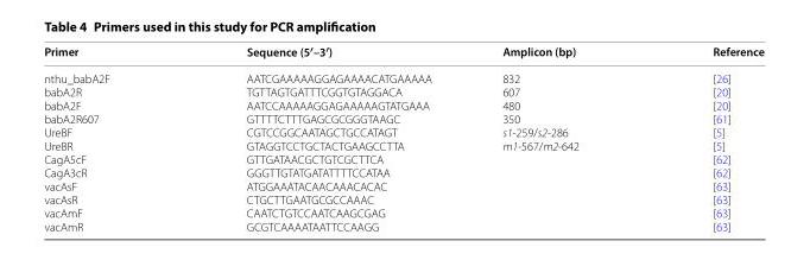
<table><thead><tr><td>Primer</td><td>Sequence (5′–3′)</td><td>Amplicon (bp)</td><td>Reference</td></tr></thead><tbody><tr><td>nthu_babA2F babA2R babA2F babA2R607 UreBF UreBR CagA5cF CagA3cR vacAsF vacAsR vacAmF vacAmR</td><td>AATCGAAAAAGGAGAAAACATGAAAAA TGTTAGTGATTTCGGTGTAGGACA AATCCAAAAAGGAGAAAAAGTATGAAA GTTTTCTTTGAGCGCGGGTAAGC CGTCCGGCAATAGCTGCCATAGT GTAGGTCCTGCTACTGAAGCCTTA GTTGATAACGCTGTCGCTTCA GGGTTGTATGATATTTTCCATAA ATGGAAATACAACAAACACAC CTGCTTGAATGCGCCAAAC CAATCTGTCCAATCAAGCGAG GCGTCAAAATAATTCCAAGG</td><td>832 607 480 350 s1-259/s2-286 m1-567/m2-642</td><td>[26] [20] [20] [61] [5] [5] [62] [62] [63] [63] [63] [63]</td></tr></tbody></table>